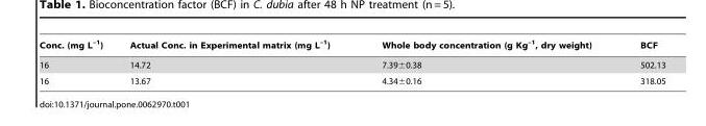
<table><thead><tr><td>Conc. (mg L<sup>–1</sup>)</td><td>Actual Conc. in Experimental matrix (mg L<sup>–1</sup>)</td><td>Whole body concentration (g Kg<sup>–1</sup>, dry weight)</td><td>BCF</td></tr></thead><tbody><tr><td>16</td><td>14.72</td><td>7.39±0.38</td><td>502.13</td></tr><tr><td>16</td><td>13.67</td><td>4.34±0.16</td><td>318.05</td></tr></tbody></table>